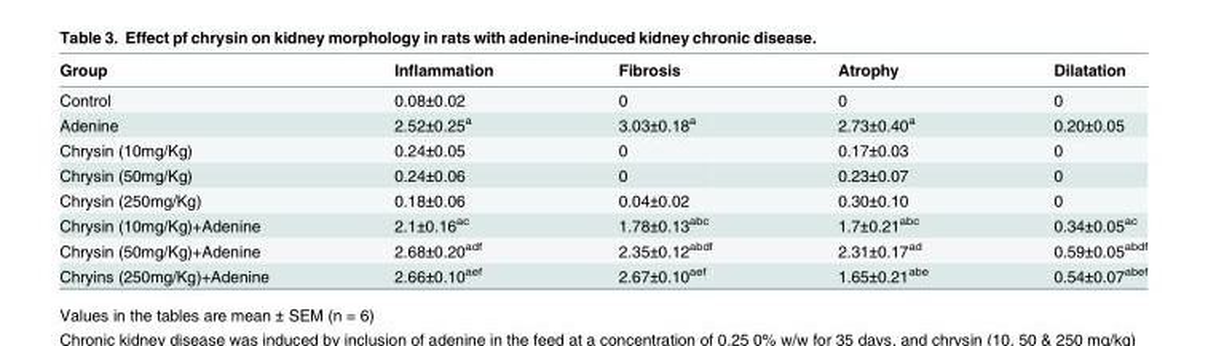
<table><thead><tr><td>Group</td><td>Inflammation</td><td>Fibrosis</td><td>Atrophy</td><td>Dilatation</td></tr></thead><tbody><tr><td>Control</td><td>0.08±0.02</td><td>0</td><td>0</td><td>0</td></tr><tr><td>Adenine</td><td>2.52±0.25<sup>a</sup></td><td>3.03±0.18<sup>a</sup></td><td>2.73±0.40<sup>a</sup></td><td>0.20±0.05</td></tr><tr><td>Chrysin (10mg/Kg)</td><td>0.24±0.05</td><td>0</td><td>0.17±0.03</td><td>0</td></tr><tr><td>Chrysin (50mg/Kg)</td><td>0.24±0.06</td><td>0</td><td>0.23±0.07</td><td>0</td></tr><tr><td>Chrysin (250mg/Kg)</td><td>0.18±0.06</td><td>0.04±0.02</td><td>0.30±0.10</td><td>0</td></tr><tr><td>Chrysin (10mg/Kg)+Adenine</td><td>2.1±0.16<sup>ac</sup></td><td>1.78±0.13<sup>abc</sup></td><td>1.7±0.21<sup>abc</sup></td><td>0.34±0.05<sup>ac</sup></td></tr><tr><td>Chrysin (50mg/Kg)+Adenine</td><td>2.68±0.20<sup>adf</sup></td><td>2.35±0.12<sup>abdf</sup></td><td>2.31±0.17<sup>ad</sup></td><td>0.59±0.05<sup>abdf</sup></td></tr><tr><td>Chryins (250mg/Kg)+Adenine</td><td>2.66±0.10<sup>aef</sup></td><td>2.67±0.10<sup>aef</sup></td><td>1.65±0.21<sup>abe</sup></td><td>0.54±0.07<sup>abef</sup></td></tr></tbody></table>